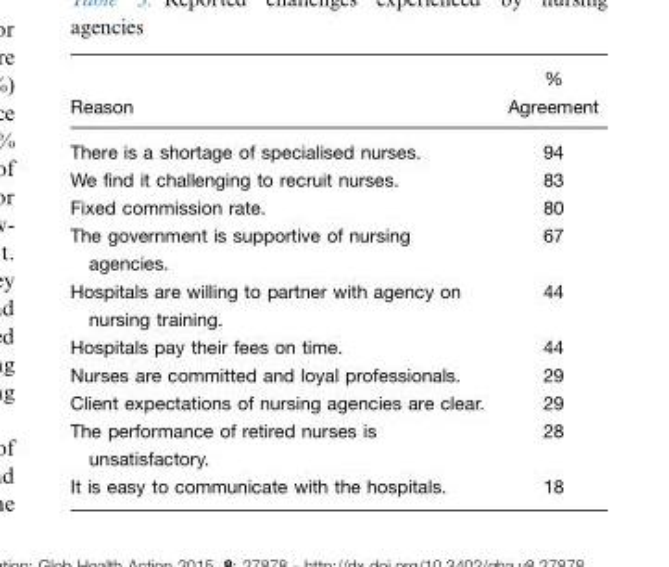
<table><thead><tr><td>Reason</td><td>% Agreement</td></tr></thead><tbody><tr><td>There is a shortage of specialised nurses.</td><td>94</td></tr><tr><td>We find it challenging to recruit nurses.</td><td>83</td></tr><tr><td>Fixed commission rate.</td><td>80</td></tr><tr><td>The government is supportive of nursing agencies.</td><td>67</td></tr><tr><td>Hospitals are willing to partner with agency on nursing training.</td><td>44</td></tr><tr><td>Hospitals pay their fees on time.</td><td>44</td></tr><tr><td>Nurses are committed and loyal professionals.</td><td>29</td></tr><tr><td>Client expectations of nursing agencies are clear.</td><td>29</td></tr><tr><td>The performance of retired nurses is unsatisfactory.</td><td>28</td></tr><tr><td>It is easy to communicate with the hospitals.</td><td>18</td></tr></tbody></table>